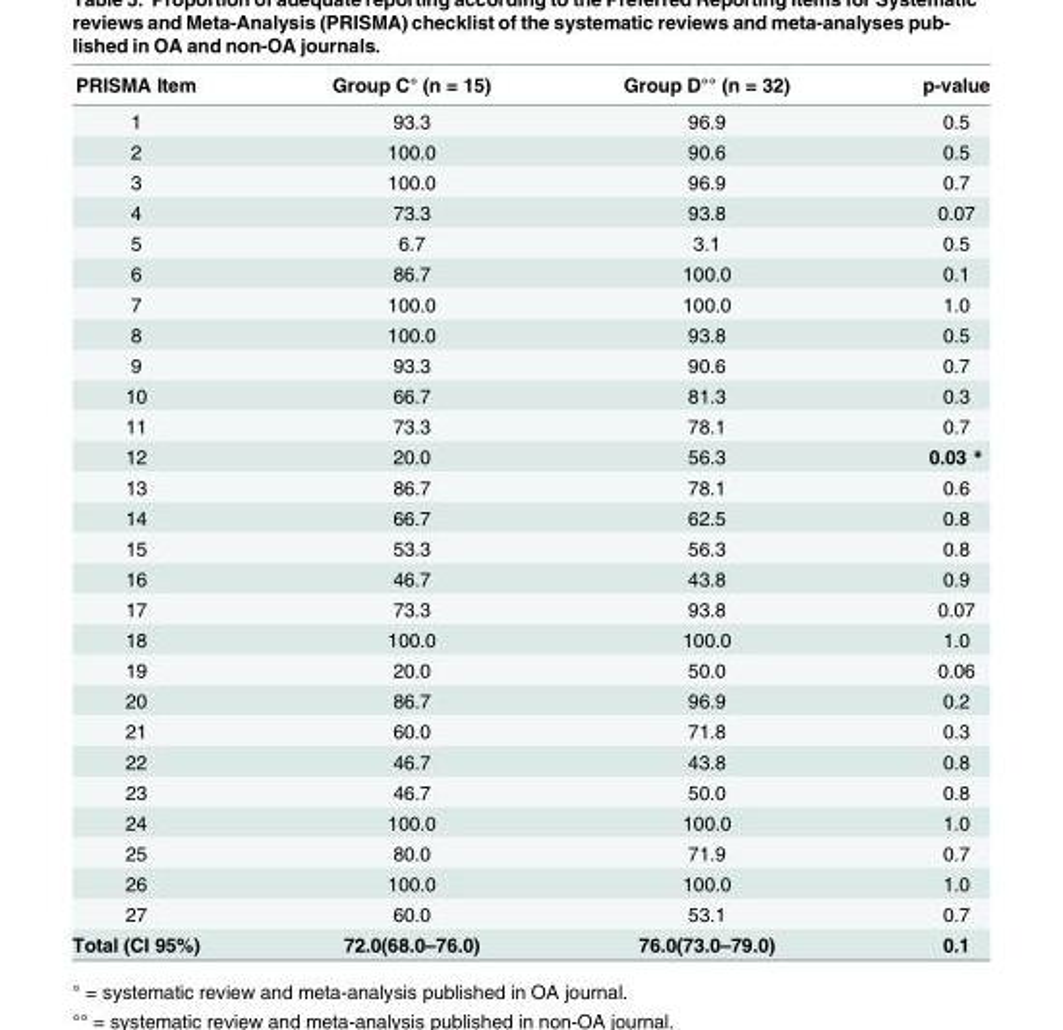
<table><thead><tr><td>PRISMA Item</td><td>Group C° (n = 15)</td><td>Group D°° (n = 32)</td><td>p-value</td></tr></thead><tbody><tr><td>1</td><td>93.3</td><td>96.9</td><td>0.5</td></tr><tr><td>2</td><td>100.0</td><td>90.6</td><td>0.5</td></tr><tr><td>3</td><td>100.0</td><td>96.9</td><td>0.7</td></tr><tr><td>4</td><td>73.3</td><td>93.8</td><td>0.07</td></tr><tr><td>5</td><td>6.7</td><td>3.1</td><td>0.5</td></tr><tr><td>6</td><td>86.7</td><td>100.0</td><td>0.1</td></tr><tr><td>7</td><td>100.0</td><td>100.0</td><td>1.0</td></tr><tr><td>8</td><td>100.0</td><td>93.8</td><td>0.5</td></tr><tr><td>9</td><td>93.3</td><td>90.6</td><td>0.7</td></tr><tr><td>10</td><td>66.7</td><td>81.3</td><td>0.3</td></tr><tr><td>11</td><td>73.3</td><td>78.1</td><td>0.7</td></tr><tr><td>12</td><td>20.0</td><td>56.3</td><td>0.03 *</td></tr><tr><td>13</td><td>86.7</td><td>78.1</td><td>0.6</td></tr><tr><td>14</td><td>66.7</td><td>62.5</td><td>0.8</td></tr><tr><td>15</td><td>53.3</td><td>56.3</td><td>0.8</td></tr><tr><td>16</td><td>46.7</td><td>43.8</td><td>0.9</td></tr><tr><td>17</td><td>73.3</td><td>93.8</td><td>0.07</td></tr><tr><td>18</td><td>100.0</td><td>100.0</td><td>1.0</td></tr><tr><td>19</td><td>20.0</td><td>50.0</td><td>0.06</td></tr><tr><td>20</td><td>86.7</td><td>96.9</td><td>0.2</td></tr><tr><td>21</td><td>60.0</td><td>71.8</td><td>0.3</td></tr><tr><td>22</td><td>46.7</td><td>43.8</td><td>0.8</td></tr><tr><td>23</td><td>46.7</td><td>50.0</td><td>0.8</td></tr><tr><td>24</td><td>100.0</td><td>100.0</td><td>1.0</td></tr><tr><td>25</td><td>80.0</td><td>71.9</td><td>0.7</td></tr><tr><td>26</td><td>100.0</td><td>100.0</td><td>1.0</td></tr><tr><td>27</td><td>60.0</td><td>53.1</td><td>0.7</td></tr><tr><td>Total (CI 95%)</td><td>72.0(68.0–76.0)</td><td>76.0(73.0–79.0)</td><td>0.1</td></tr></tbody></table>